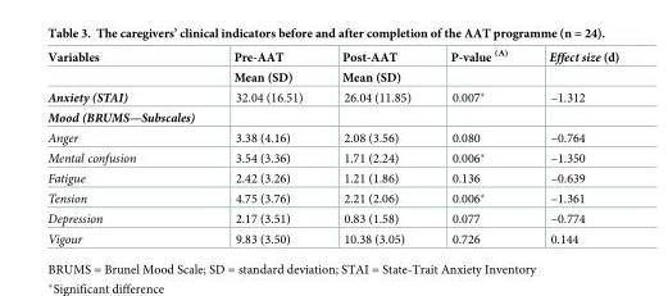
<table><thead><tr><td rowspan="2">Variables</td><td rowspan="2">Pre-AAT Mean (SD)</td><td rowspan="2">Post-AAT Mean (SD)</td><td rowspan="2">P-value <sup>(A)</sup></td><td rowspan="2">Effect size (d)</td></tr><tr></tr></thead><tbody><tr><td>Anxiety (STAI)</td><td>32.04 (16.51)</td><td>26.04 (11.85)</td><td>0.007*</td><td>–1.312</td></tr><tr><td colspan="5">Mood (BRUMS—Subscales)</td></tr><tr><td>Anger</td><td>3.38 (4.16)</td><td>2.08 (3.56)</td><td>0.080</td><td>–0.764</td></tr><tr><td>Mental confusion</td><td>3.54 (3.36)</td><td>1.71 (2.24)</td><td>0.006*</td><td>–1.350</td></tr><tr><td>Fatigue</td><td>2.42 (3.26)</td><td>1.21 (1.86)</td><td>0.136</td><td>–0.639</td></tr><tr><td>Tension</td><td>4.75 (3.76)</td><td>2.21 (2.06)</td><td>0.006*</td><td>–1.361</td></tr><tr><td>Depression</td><td>2.17 (3.51)</td><td>0.83 (1.58)</td><td>0.077</td><td>–0.774</td></tr><tr><td>Vigour</td><td>9.83 (3.50)</td><td>10.38 (3.05)</td><td>0.726</td><td>0.144</td></tr></tbody></table>